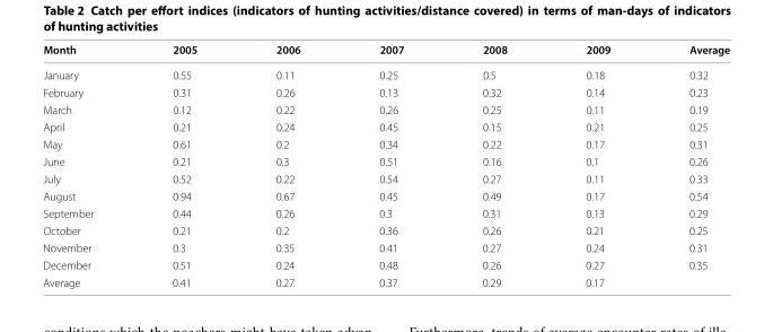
<table><thead><tr><td>Month</td><td>2005</td><td>2006</td><td>2007</td><td>2008</td><td>2009</td><td>Average</td></tr></thead><tbody><tr><td>January</td><td>0.55</td><td>0.11</td><td>0.25</td><td>0.5</td><td>0.18</td><td>0.32</td></tr><tr><td>February</td><td>0.31</td><td>0.26</td><td>0.13</td><td>0.32</td><td>0.14</td><td>0.23</td></tr><tr><td>March</td><td>0.12</td><td>0.22</td><td>0.26</td><td>0.25</td><td>0.11</td><td>0.19</td></tr><tr><td>April</td><td>0.21</td><td>0.24</td><td>0.45</td><td>0.15</td><td>0.21</td><td>0.25</td></tr><tr><td>May</td><td>0.61</td><td>0.2</td><td>0.34</td><td>0.22</td><td>0.17</td><td>0.31</td></tr><tr><td>June</td><td>0.21</td><td>0.3</td><td>0.51</td><td>0.16</td><td>0.1</td><td>0.26</td></tr><tr><td>July</td><td>0.52</td><td>0.22</td><td>0.54</td><td>0.27</td><td>0.11</td><td>0.33</td></tr><tr><td>August</td><td>0.94</td><td>0.67</td><td>0.45</td><td>0.49</td><td>0.17</td><td>0.54</td></tr><tr><td>September</td><td>0.44</td><td>0.26</td><td>0.3</td><td>0.31</td><td>0.13</td><td>0.29</td></tr><tr><td>October</td><td>0.21</td><td>0.2</td><td>0.36</td><td>0.26</td><td>0.21</td><td>0.25</td></tr><tr><td>November</td><td>0.3</td><td>0.35</td><td>0.41</td><td>0.27</td><td>0.24</td><td>0.31</td></tr><tr><td>December</td><td>0.51</td><td>0.24</td><td>0.48</td><td>0.26</td><td>0.27</td><td>0.35</td></tr><tr><td>Average</td><td>0.41</td><td>0.27</td><td>0.37</td><td>0.29</td><td>0.17</td><td></td></tr></tbody></table>